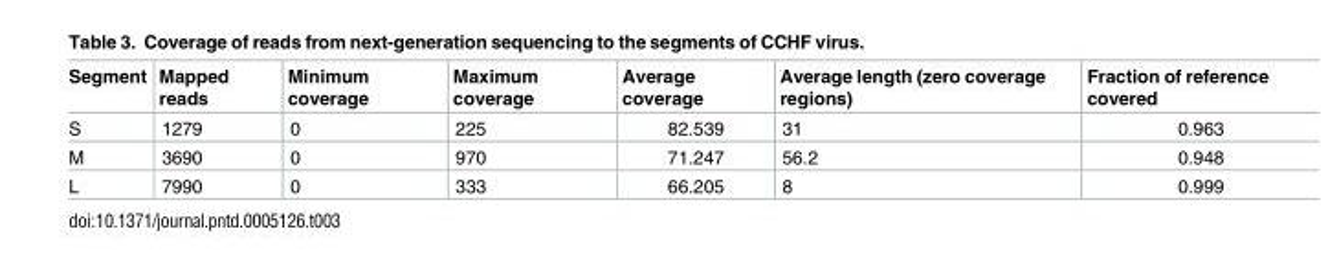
<table><thead><tr><td>Segment</td><td>Mapped reads</td><td>Minimum coverage</td><td>Maximum coverage</td><td>Average coverage</td><td>Average length (zero coverage regions)</td><td>Fraction of reference covered</td></tr></thead><tbody><tr><td>S</td><td>1279</td><td>0</td><td>225</td><td>82.539</td><td>31</td><td>0.963</td></tr><tr><td>M</td><td>3690</td><td>0</td><td>970</td><td>71.247</td><td>56.2</td><td>0.948</td></tr><tr><td>L</td><td>7990</td><td>0</td><td>333</td><td>66.205</td><td>8</td><td>0.999</td></tr></tbody></table>